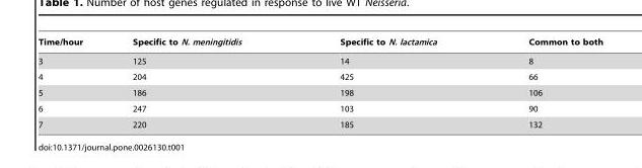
<table><thead><tr><td>Time/hour</td><td>Specific to N. meningitidis</td><td>Specific to N. lactamica</td><td>Common to both</td></tr></thead><tbody><tr><td>3</td><td>125</td><td>14</td><td>8</td></tr><tr><td>4</td><td>204</td><td>425</td><td>66</td></tr><tr><td>5</td><td>186</td><td>198</td><td>106</td></tr><tr><td>6</td><td>247</td><td>103</td><td>90</td></tr><tr><td>7</td><td>220</td><td>185</td><td>132</td></tr></tbody></table>